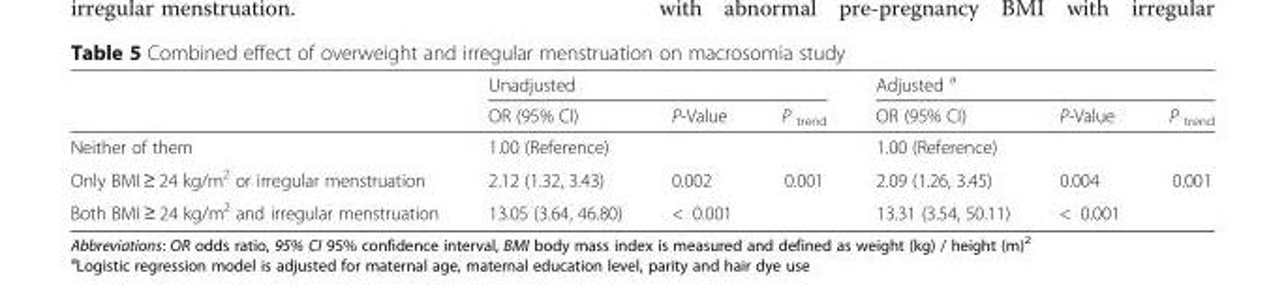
<table><thead><tr><td rowspan="2"></td><td colspan="3">Unadjusted</td><td colspan="3">Adjusted <sup>a</sup></td></tr><tr><td>OR (95% CI)</td><td>P-Value</td><td>P <sub>trend</sub></td><td>OR (95% CI)</td><td>P-Value</td><td>P <sub>trend</sub></td></tr></thead><tbody><tr><td>Neither of them</td><td>1.00 (Reference)</td><td></td><td></td><td>1.00 (Reference)</td><td></td><td></td></tr><tr><td>Only BMI ≥ 24 kg/m<sup>2</sup> or irregular menstruation</td><td>2.12 (1.32, 3.43)</td><td>0.002</td><td>0.001</td><td>2.09 (1.26, 3.45)</td><td>0.004</td><td>0.001</td></tr><tr><td>Both BMI ≥ 24 kg/m<sup>2</sup> and irregular menstruation</td><td>13.05 (3.64, 46.80)</td><td>&lt; 0.001</td><td></td><td>13.31 (3.54, 50.11)</td><td>&lt; 0.001</td><td></td></tr></tbody></table>